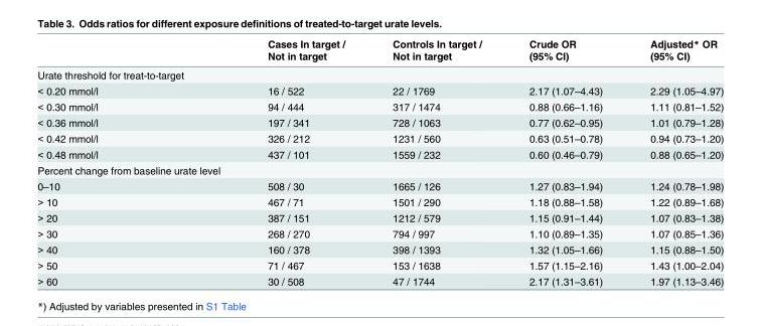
<table><thead><tr><td></td><td>Cases In target / Not in target</td><td>Controls In target / Not in target</td><td>Crude OR (95% CI)</td><td>Adjusted* OR (95% CI)</td></tr></thead><tbody><tr><td colspan="5">Urate threshold for treat-to-target</td></tr><tr><td>&lt; 0.20 mmol/l</td><td>16 / 522</td><td>22 / 1769</td><td>2.17 (1.07–4.43)</td><td>2.29 (1.05–4.97)</td></tr><tr><td>&lt; 0.30 mmol/l</td><td>94 / 444</td><td>317 / 1474</td><td>0.88 (0.66–1.16)</td><td>1.11 (0.81–1.52)</td></tr><tr><td>&lt; 0.36 mmol/l</td><td>197 / 341</td><td>728 / 1063</td><td>0.77 (0.62–0.95)</td><td>1.01 (0.79–1.28)</td></tr><tr><td>&lt; 0.42 mmol/l</td><td>326 / 212</td><td>1231 / 560</td><td>0.63 (0.51–0.78)</td><td>0.94 (0.73–1.20)</td></tr><tr><td>&lt; 0.48 mmol/l</td><td>437 / 101</td><td>1559 / 232</td><td>0.60 (0.46–0.79)</td><td>0.88 (0.65–1.20)</td></tr><tr><td colspan="5">Percent change from baseline urate level</td></tr><tr><td>0–10</td><td>508 / 30</td><td>1665 / 126</td><td>1.27 (0.83–1.94)</td><td>1.24 (0.78–1.98)</td></tr><tr><td>&gt; 10</td><td>467 / 71</td><td>1501 / 290</td><td>1.18 (0.88–1.58)</td><td>1.22 (0.89–1.68)</td></tr><tr><td>&gt; 20</td><td>387 / 151</td><td>1212 / 579</td><td>1.15 (0.91–1.44)</td><td>1.07 (0.83–1.38)</td></tr><tr><td>&gt; 30</td><td>268 / 270</td><td>794 / 997</td><td>1.10 (0.89–1.35)</td><td>1.07 (0.85–1.36)</td></tr><tr><td>&gt; 40</td><td>160 / 378</td><td>398 / 1393</td><td>1.32 (1.05–1.66)</td><td>1.15 (0.88–1.50)</td></tr><tr><td>&gt; 50</td><td>71 / 467</td><td>153 / 1638</td><td>1.57 (1.15–2.16)</td><td>1.43 (1.00–2.04)</td></tr><tr><td>&gt; 60</td><td>30 / 508</td><td>47 / 1744</td><td>2.17 (1.31–3.61)</td><td>1.97 (1.13–3.46)</td></tr></tbody></table>